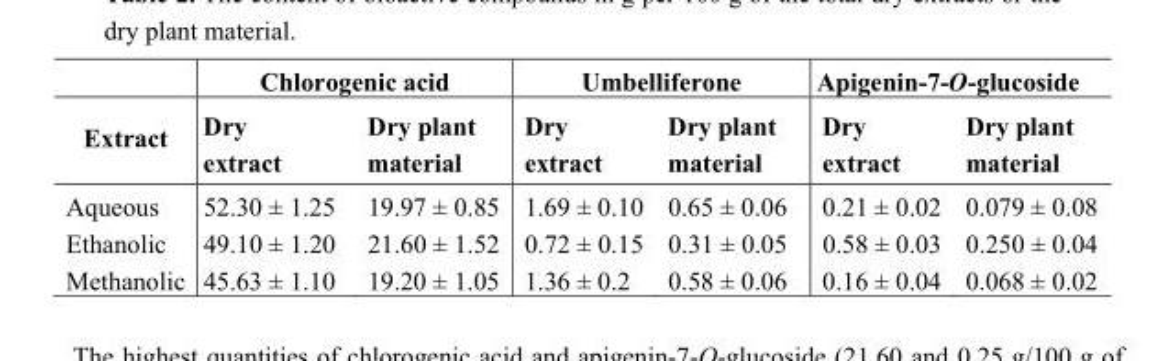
<table><thead><tr><td rowspan="2">Extract</td><td colspan="2">Chlorogenic acid</td><td colspan="2">Umbelliferone</td><td colspan="2">Apigenin-7-O-glucoside</td></tr><tr><td>Dry extract</td><td>Dry plant material</td><td>Dry extract</td><td>Dry plant material</td><td>Dry extract</td><td>Dry plant material</td></tr></thead><tbody><tr><td>Aqueous</td><td>52.30 ± 1.25</td><td>19.97 ± 0.85</td><td>1.69 ± 0.10</td><td>0.65 ± 0.06</td><td>0.21 ± 0.02</td><td>0.079 ± 0.08</td></tr><tr><td>Ethanolic</td><td>49.10 ± 1.20</td><td>21.60 ± 1.52</td><td>0.72 ± 0.15</td><td>0.31 ± 0.05</td><td>0.58 ± 0.03</td><td>0.250 ± 0.04</td></tr><tr><td>Methanolic</td><td>45.63 ± 1.10</td><td>19.20 ± 1.05</td><td>1.36 ± 0.2</td><td>0.58 ± 0.06</td><td>0.16 ± 0.04</td><td>0.068 ± 0.02</td></tr></tbody></table>